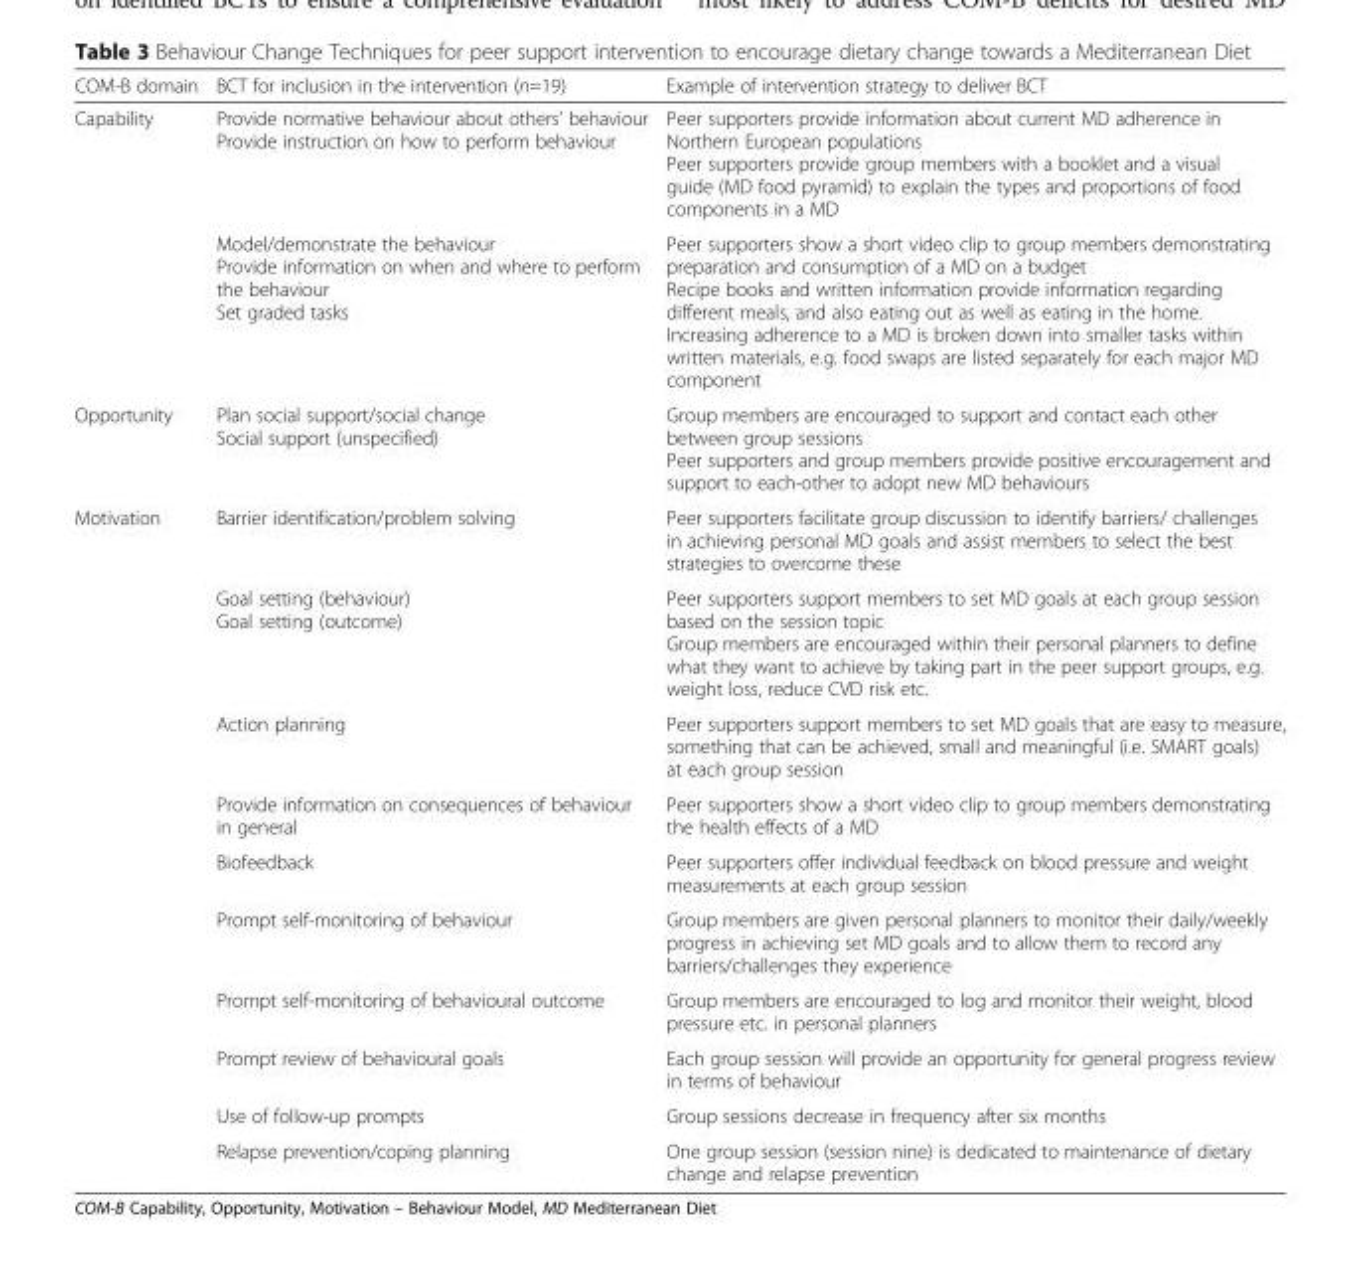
<table><thead><tr><td>COM-B domain</td><td>BCT for inclusion in the intervention (n=19)</td><td>Example of intervention strategy to deliver BCT</td></tr></thead><tbody><tr><td rowspan="2">Capability</td><td>Provide normative behaviour about others’ behaviour Provide instruction on how to perform behaviour</td><td>Peer supporters provide information about current MD adherence in Northern European populations Peer supporters provide group members with a booklet and a visual guide (MD food pyramid) to explain the types and proportions of food components in a MD</td></tr><tr><td>Model/demonstrate the behaviour Provide information on when and where to perform the behaviour Set graded tasks</td><td>Peer supporters show a short video clip to group members demonstrating preparation and consumption of a MD on a budget Recipe books and written information provide information regarding different meals, and also eating out as well as eating in the home. Increasing adherence to a MD is broken down into smaller tasks within written materials, e.g. food swaps are listed separately for each major MD component</td></tr><tr><td>Opportunity</td><td>Plan social support/social change Social support (unspecified)</td><td>Group members are encouraged to support and contact each other between group sessions Peer supporters and group members provide positive encouragement and support to each-other to adopt new MD behaviours</td></tr><tr><td rowspan="10">Motivation</td><td>Barrier identification/problem solving</td><td>Peer supporters facilitate group discussion to identify barriers/ challenges in achieving personal MD goals and assist members to select the best strategies to overcome these</td></tr><tr><td>Goal setting (behaviour) Goal setting (outcome)</td><td>Peer supporters support members to set MD goals at each group session based on the session topic Group members are encouraged within their personal planners to define what they want to achieve by taking part in the peer support groups, e.g. weight loss, reduce CVD risk etc.</td></tr><tr><td>Action planning</td><td>Peer supporters support members to set MD goals that are easy to measure, something that can be achieved, small and meaningful (i.e. SMART goals) at each group session</td></tr><tr><td>Provide information on consequences of behaviour in general</td><td>Peer supporters show a short video clip to group members demonstrating the health effects of a MD</td></tr><tr><td>Biofeedback</td><td>Peer supporters offer individual feedback on blood pressure and weight measurements at each group session</td></tr><tr><td>Prompt self-monitoring of behaviour</td><td>Group members are given personal planners to monitor their daily/weekly progress in achieving set MD goals and to allow them to record any barriers/challenges they experience</td></tr><tr><td>Prompt self-monitoring of behavioural outcome</td><td>Group members are encouraged to log and monitor their weight, blood pressure etc. in personal planners</td></tr><tr><td>Prompt review of behavioural goals</td><td>Each group session will provide an opportunity for general progress review in terms of behaviour</td></tr><tr><td>Use of follow-up prompts</td><td>Group sessions decrease in frequency after six months</td></tr><tr><td>Relapse prevention/coping planning</td><td>One group session (session nine) is dedicated to maintenance of dietary change and relapse prevention</td></tr></tbody></table>